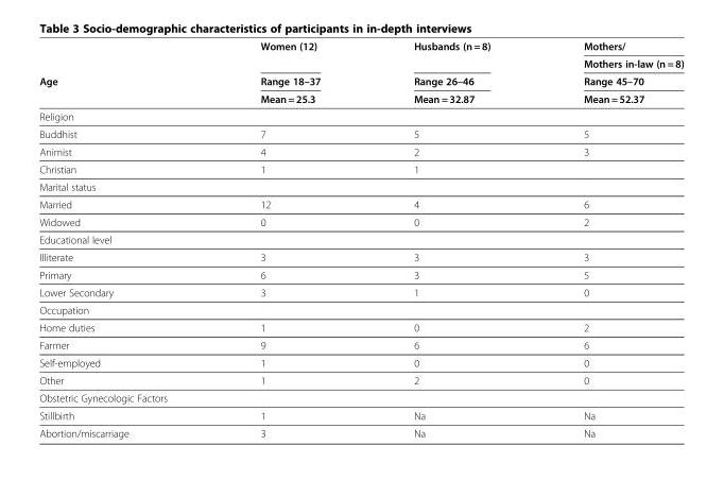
<table><thead><tr><td rowspan="4">Age</td><td rowspan="4">Women (12) Range 18–37 Mean = 25.3</td><td rowspan="4">Husbands (n = 8) Range 26–46 Mean = 32.87</td><td rowspan="4">Mothers/ Mothers in-law (n = 8) Range 45–70 Mean = 52.37</td></tr><tr></tr><tr></tr><tr></tr></thead><tbody><tr><td colspan="4">Religion</td></tr><tr><td>Buddhist</td><td>7</td><td>5</td><td>5</td></tr><tr><td>Animist</td><td>4</td><td>2</td><td>3</td></tr><tr><td>Christian</td><td>1</td><td>1</td><td></td></tr><tr><td colspan="4">Marital status</td></tr><tr><td>Married</td><td>12</td><td>4</td><td>6</td></tr><tr><td>Widowed</td><td>0</td><td>0</td><td>2</td></tr><tr><td colspan="4">Educational level</td></tr><tr><td>Illiterate</td><td>3</td><td>3</td><td>3</td></tr><tr><td>Primary</td><td>6</td><td>3</td><td>5</td></tr><tr><td>Lower Secondary</td><td>3</td><td>1</td><td>0</td></tr><tr><td colspan="4">Occupation</td></tr><tr><td>Home duties</td><td>1</td><td>0</td><td>2</td></tr><tr><td>Farmer</td><td>9</td><td>6</td><td>6</td></tr><tr><td>Self-employed</td><td>1</td><td>0</td><td>0</td></tr><tr><td>Other</td><td>1</td><td>2</td><td>0</td></tr><tr><td colspan="4">Obstetric Gynecologic Factors</td></tr><tr><td>Stillbirth</td><td>1</td><td>Na</td><td>Na</td></tr><tr><td>Abortion/miscarriage</td><td>3</td><td>Na</td><td>Na</td></tr></tbody></table>